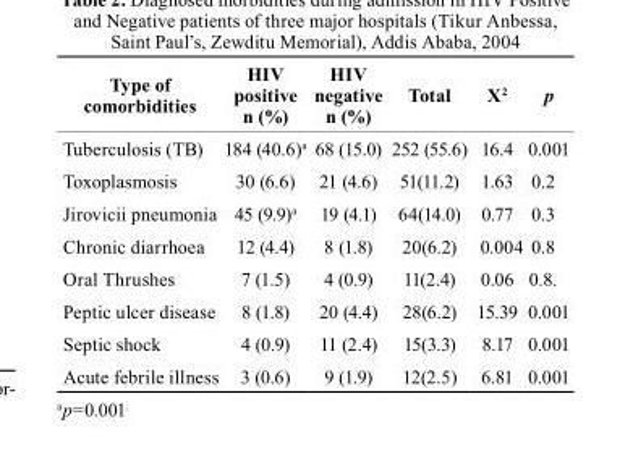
<table><thead><tr><td>type of comorbidities</td><td>HIV positive n (%)</td><td>HIV negative n (%)</td><td>total</td><td>X<sup>2</sup></td><td>p</td></tr></thead><tbody><tr><td>Tuberculosis (TB)</td><td>184 (40.6)<sup>a</sup></td><td>68 (15.0)</td><td>252 (55.6)</td><td>16.4</td><td>0.001</td></tr><tr><td>Toxoplasmosis</td><td>30 (6.6)</td><td>21 (4.6)</td><td>51(11.2)</td><td>1.63</td><td>0.2</td></tr><tr><td>Jirovicii pneumonia</td><td>45 (9.9)<sup>a</sup></td><td>19 (4.1)</td><td>64(14.0)</td><td>0.77</td><td>0.3</td></tr><tr><td>Chronic diarrhoea</td><td>12 (4.4)</td><td>8 (1.8)</td><td>20(6.2)</td><td>0.004</td><td>0.8</td></tr><tr><td>Oral Thrushes</td><td>7 (1.5)</td><td>4 (0.9)</td><td>11(2.4)</td><td>0.06</td><td>0.8.</td></tr><tr><td>Peptic ulcer disease</td><td>8 (1.8)</td><td>20 (4.4)</td><td>28(6.2)</td><td>15.39</td><td>0.001</td></tr><tr><td>Septic shock</td><td>4 (0.9)</td><td>11 (2.4)</td><td>15(3.3)</td><td>8.17</td><td>0.001</td></tr><tr><td>Acute febrile illness</td><td>3 (0.6)</td><td>9 (1.9)</td><td>12(2.5)</td><td>6.81</td><td>0.001</td></tr></tbody></table>